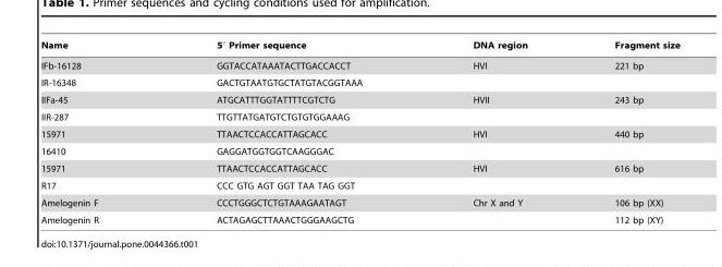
<table><thead><tr><td>Name</td><td>5′ Primer sequence</td><td>DNA region</td><td>Fragment size</td></tr></thead><tbody><tr><td>IFb-16128</td><td>GGTACCATAAATACTTGACCACCT</td><td>HVI</td><td>221 bp</td></tr><tr><td>IR-16348</td><td>GACTGTAATGTGCTATGTACGGTAAA</td><td></td><td></td></tr><tr><td>IIFa-45</td><td>ATGCATTTGGTATTTTCGTCTG</td><td>HVII</td><td>243 bp</td></tr><tr><td>IIR-287</td><td>TTGTTATGATGTCTGTGTGGAAAG</td><td></td><td></td></tr><tr><td>15971</td><td>TTAACTCCACCATTAGCACC</td><td>HVI</td><td>440 bp</td></tr><tr><td>16410</td><td>GAGGATGGTGGTCAAGGGAC</td><td></td><td></td></tr><tr><td>15971</td><td>TTAACTCCACCATTAGCACC</td><td>HVI</td><td>616 bp</td></tr><tr><td>R17</td><td>CCC GTG AGT GGT TAA TAG GGT</td><td></td><td></td></tr><tr><td>Amelogenin F</td><td>CCCTGGGCTCTGTAAAGAATAGT</td><td>Chr X and Y</td><td>106 bp (XX)</td></tr><tr><td>Amelogenin R</td><td>ACTAGAGCTTAAACTGGGAAGCTG</td><td></td><td>112 bp (XY)</td></tr></tbody></table>